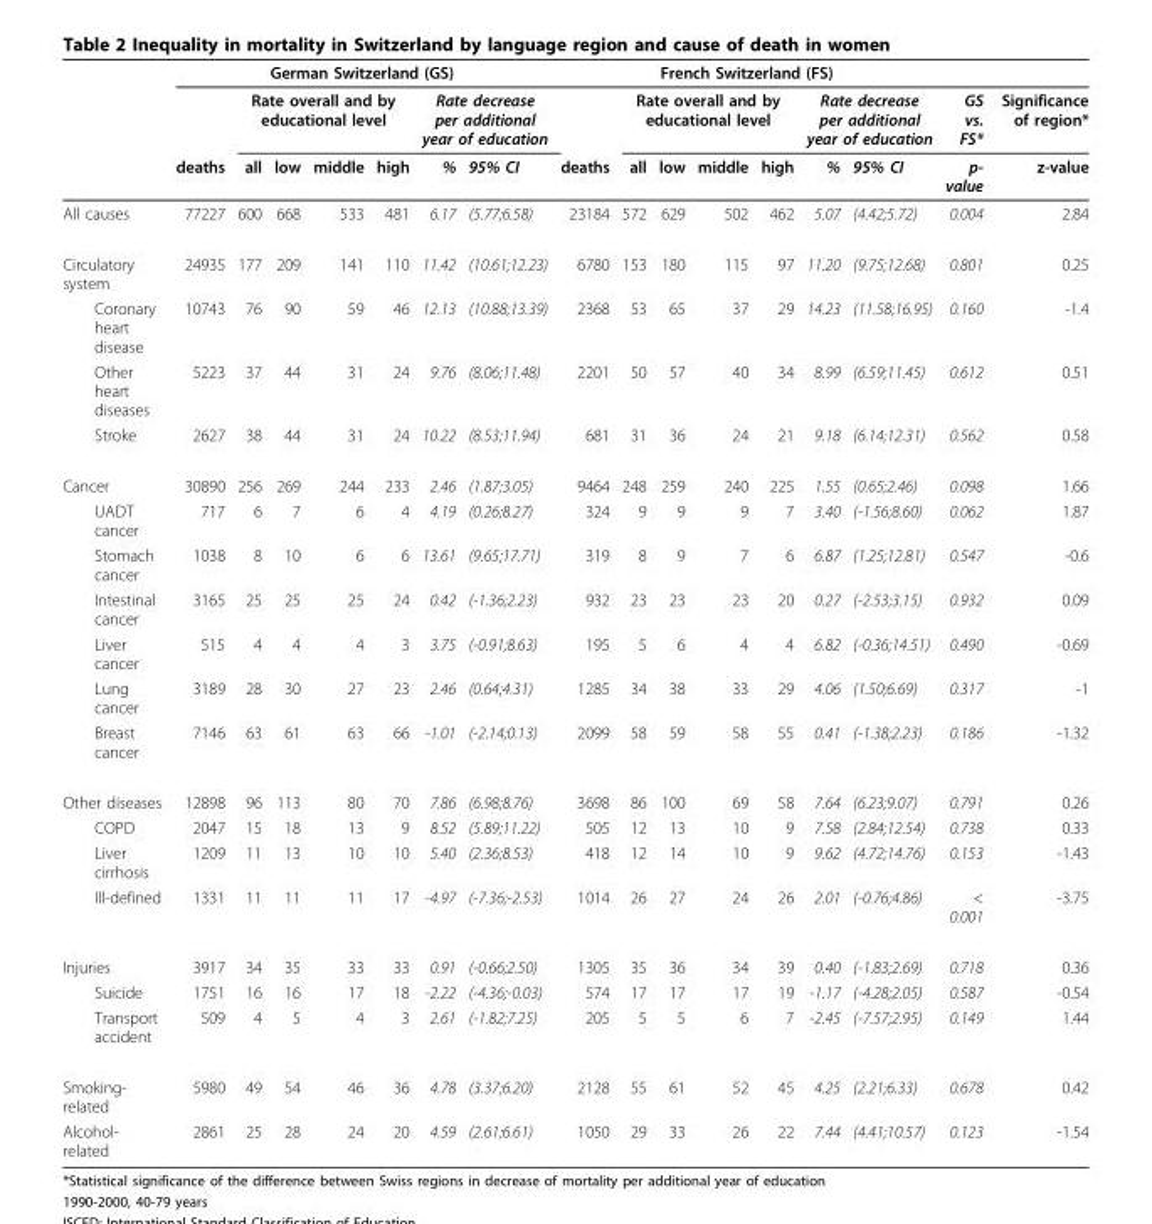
<table><thead><tr><td rowspan="3"></td><td colspan="7">German Switzerland (GS)</td><td colspan="7">French Switzerland (FS)</td><td rowspan="3">GS vs. FS* p- value</td><td rowspan="3">Significance of region* z-value</td></tr><tr><td rowspan="2">deaths</td><td colspan="4">Rate overall and by educational level</td><td colspan="2">Rate decrease per additional year of education</td><td rowspan="2">deaths</td><td colspan="4">Rate overall and by educational level</td><td colspan="2">Rate decrease per additional year of education</td></tr><tr><td>all</td><td>low</td><td>middle</td><td>high</td><td>%</td><td>95% CI</td><td>all</td><td>low</td><td>middle</td><td>high</td><td>%</td><td>95% CI</td></tr></thead><tbody><tr><td>All causes</td><td>77227</td><td>600</td><td>668</td><td>533</td><td>481</td><td>6.17</td><td>(5.77;6.58)</td><td>23184</td><td>572</td><td>629</td><td>502</td><td>462</td><td>5.07</td><td>(4.42;5.72)</td><td>0.004</td><td>2.84</td></tr><tr><td>Circulatory system</td><td>24935</td><td>177</td><td>209</td><td>141</td><td>110</td><td>11.42</td><td>(10.61;12.23)</td><td>6780</td><td>153</td><td>180</td><td>115</td><td>97</td><td>11.20</td><td>(9.75;12.68)</td><td>0.801</td><td>0.25</td></tr><tr><td>Coronary heart disease</td><td>10743</td><td>76</td><td>90</td><td>59</td><td>46</td><td>12.13</td><td>(10.88;13.39)</td><td>2368</td><td>53</td><td>65</td><td>37</td><td>29</td><td>14.23</td><td>(11.58;16.95)</td><td>0.160</td><td>-1.4</td></tr><tr><td>Other heart diseases</td><td>5223</td><td>37</td><td>44</td><td>31</td><td>24</td><td>9.76</td><td>(8.06;11.48)</td><td>2201</td><td>50</td><td>57</td><td>40</td><td>34</td><td>8.99</td><td>(6.59;11.45)</td><td>0.612</td><td>0.51</td></tr><tr><td>Stroke</td><td>2627</td><td>38</td><td>44</td><td>31</td><td>24</td><td>10.22</td><td>(8.53;11.94)</td><td>681</td><td>31</td><td>36</td><td>24</td><td>21</td><td>9.18</td><td>(6.14;12.31)</td><td>0.562</td><td>0.58</td></tr><tr><td>Cancer</td><td>30890</td><td>256</td><td>269</td><td>244</td><td>233</td><td>2.46</td><td>(1.87;3.05)</td><td>9464</td><td>248</td><td>259</td><td>240</td><td>225</td><td>1.55</td><td>(0.65;2.46)</td><td>0.098</td><td>1.66</td></tr><tr><td>UADT cancer</td><td>717</td><td>6</td><td>7</td><td>6</td><td>4</td><td>4.19</td><td>(0.26;8.27)</td><td>324</td><td>9</td><td>9</td><td>9</td><td>7</td><td>3.40</td><td>(-1.56;8.60)</td><td>0.062</td><td>1.87</td></tr><tr><td>Stomach cancer</td><td>1038</td><td>8</td><td>10</td><td>6</td><td>6</td><td>13.61</td><td>(9.65;17.71)</td><td>319</td><td>8</td><td>9</td><td>7</td><td>6</td><td>6.87</td><td>(1.25;12.81)</td><td>0.547</td><td>-0.6</td></tr><tr><td>Intestinal cancer</td><td>3165</td><td>25</td><td>25</td><td>25</td><td>24</td><td>0.42</td><td>(-1.36;2.23)</td><td>932</td><td>23</td><td>23</td><td>23</td><td>20</td><td>0.27</td><td>(-2.53;3.15)</td><td>0.932</td><td>0.09</td></tr><tr><td>Liver cancer</td><td>515</td><td>4</td><td>4</td><td>4</td><td>3</td><td>3.75</td><td>(-0.91;8.63)</td><td>195</td><td>5</td><td>6</td><td>4</td><td>4</td><td>6.82</td><td>(-0.36;14.51)</td><td>0.490</td><td>-0.69</td></tr><tr><td>Lung cancer</td><td>3189</td><td>28</td><td>30</td><td>27</td><td>23</td><td>2.46</td><td>(0.64;4.31)</td><td>1285</td><td>34</td><td>38</td><td>33</td><td>29</td><td>4.06</td><td>(1.50;6.69)</td><td>0.317</td><td>-1</td></tr><tr><td>Breast cancer</td><td>7146</td><td>63</td><td>61</td><td>63</td><td>66</td><td>-1.01</td><td>(-2.14;0.13)</td><td>2099</td><td>58</td><td>59</td><td>58</td><td>55</td><td>0.41</td><td>(-1.38;2.23)</td><td>0.186</td><td>-1.32</td></tr><tr><td>Other diseases</td><td>12898</td><td>96</td><td>113</td><td>80</td><td>70</td><td>7.86</td><td>(6.98;8.76)</td><td>3698</td><td>86</td><td>100</td><td>69</td><td>58</td><td>7.64</td><td>(6.23;9.07)</td><td>0.791</td><td>0.26</td></tr><tr><td>COPD</td><td>2047</td><td>15</td><td>18</td><td>13</td><td>9</td><td>8.52</td><td>(5.89;11.22)</td><td>505</td><td>12</td><td>13</td><td>10</td><td>9</td><td>7.58</td><td>(2.84;12.54)</td><td>0.738</td><td>0.33</td></tr><tr><td>Liver cirrhosis</td><td>1209</td><td>11</td><td>13</td><td>10</td><td>10</td><td>5.40</td><td>(2.36;8.53)</td><td>418</td><td>12</td><td>14</td><td>10</td><td>9</td><td>9.62</td><td>(4.72;14.76)</td><td>0.153</td><td>-1.43</td></tr><tr><td>Ill-defined</td><td>1331</td><td>11</td><td>11</td><td>11</td><td>17</td><td>-4.97</td><td>(-7.36;-2.53)</td><td>1014</td><td>26</td><td>27</td><td>24</td><td>26</td><td>2.01</td><td>(-0.76;4.86)</td><td>&lt; 0.001</td><td>-3.75</td></tr><tr><td>Injuries</td><td>3917</td><td>34</td><td>35</td><td>33</td><td>33</td><td>0.91</td><td>(-0.66;2.50)</td><td>1305</td><td>35</td><td>36</td><td>34</td><td>39</td><td>0.40</td><td>(-1.83;2.69)</td><td>0.718</td><td>0.36</td></tr><tr><td>Suicide</td><td>1751</td><td>16</td><td>16</td><td>17</td><td>18</td><td>-2.22</td><td>(-4.36;-0.03)</td><td>574</td><td>17</td><td>17</td><td>17</td><td>19</td><td>-1.17</td><td>(-4.28;2.05)</td><td>0.587</td><td>-0.54</td></tr><tr><td>Transport accident</td><td>509</td><td>4</td><td>5</td><td>4</td><td>3</td><td>2.61</td><td>(-1.82;7.25)</td><td>205</td><td>5</td><td>5</td><td>6</td><td>7</td><td>-2.45</td><td>(-7.57;2.95)</td><td>0.149</td><td>1.44</td></tr><tr><td>Smoking- related</td><td>5980</td><td>49</td><td>54</td><td>46</td><td>36</td><td>4.78</td><td>(3.37;6.20)</td><td>2128</td><td>55</td><td>61</td><td>52</td><td>45</td><td>4.25</td><td>(2.21;6.33)</td><td>0.678</td><td>0.42</td></tr><tr><td>Alcohol- related</td><td>2861</td><td>25</td><td>28</td><td>24</td><td>20</td><td>4.59</td><td>(2.61;6.61)</td><td>1050</td><td>29</td><td>33</td><td>26</td><td>22</td><td>7.44</td><td>(4.41;10.57)</td><td>0.123</td><td>-1.54</td></tr></tbody></table>